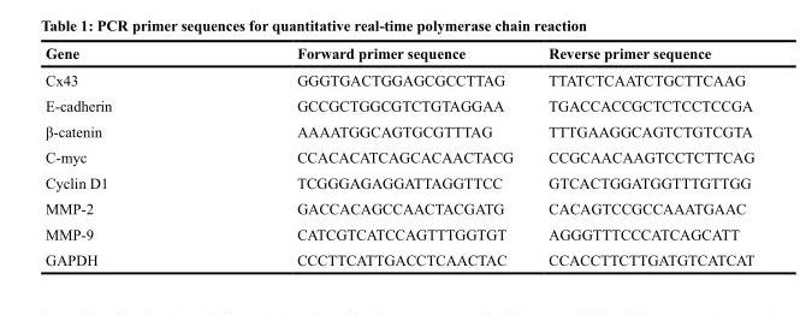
<table><thead><tr><td>Gene</td><td>Forward primer sequence</td><td>Reverse primer sequence</td></tr></thead><tbody><tr><td>Cx43</td><td>GGGTGACTGGAGCGCCTTAG</td><td>TTATCTCAATCTGCTTCAAG</td></tr><tr><td>E-cadherin</td><td>GCCGCTGGCGTCTGTAGGAA</td><td>TGACCACCGCTCTCCTCCGA</td></tr><tr><td>β-catenin</td><td>AAAATGGCAGTGCGTTTAG</td><td>TTTGAAGGCAGTCTGTCGTA</td></tr><tr><td>C-myc</td><td>CCACACATCAGCACAACTACG</td><td>CCGCAACAAGTCCTCTTCAG</td></tr><tr><td>Cyclin D1</td><td>TCGGGAGAGGATTAGGTTCC</td><td>GTCACTGGATGGTTTGTTGG</td></tr><tr><td>MMP-2</td><td>GACCACAGCCAACTACGATG</td><td>CACAGTCCGCCAAATGAAC</td></tr><tr><td>MMP-9</td><td>CATCGTCATCCAGTTTGGTGT</td><td>AGGGTTTCCCATCAGCATT</td></tr><tr><td>GAPDH</td><td>CCCTTCATTGACCTCAACTAC</td><td>CCACCTTCTTGATGTCATCAT</td></tr></tbody></table>